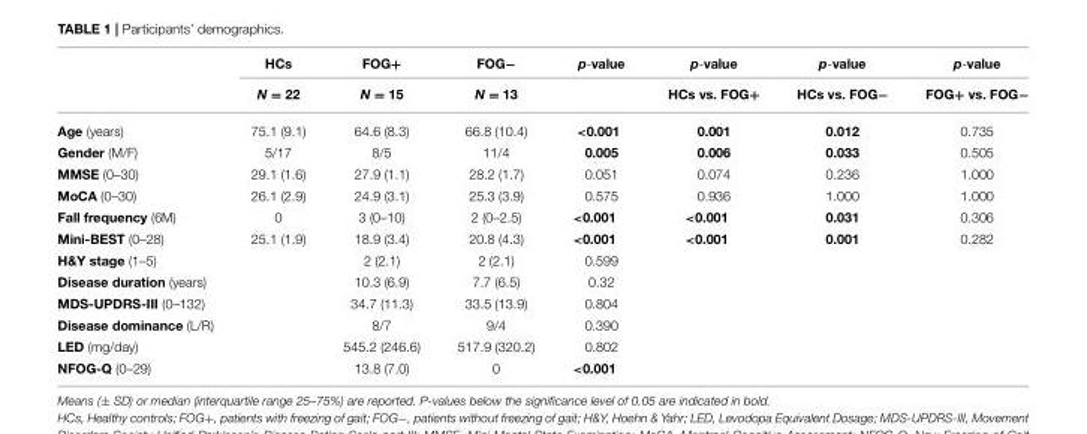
<table><thead><tr><td rowspan="2"></td><td rowspan="2">HCs N = 22</td><td rowspan="2">FOG+ N = 15</td><td rowspan="2">FOG− N = 13</td><td rowspan="2">p-value</td><td rowspan="2">p-value HCs vs. FOG+</td><td rowspan="2">p-value HCs vs. FOG−</td><td rowspan="2">p-value FOG+ vs. FOG−</td></tr><tr></tr></thead><tbody><tr><td>Age (years)</td><td>75.1 (9.1)</td><td>64.6 (8.3)</td><td>66.8 (10.4)</td><td>&lt;0.001</td><td>0.001</td><td>0.012</td><td>0.735</td></tr><tr><td>Gender (M/F)</td><td>5/17</td><td>8/5</td><td>11/4</td><td>0.005</td><td>0.006</td><td>0.033</td><td>0.505</td></tr><tr><td>MMSE (0–30)</td><td>29.1 (1.6)</td><td>27.9 (1.1)</td><td>28.2 (1.7)</td><td>0.051</td><td>0.074</td><td>0.236</td><td>1.000</td></tr><tr><td>MoCA (0–30)</td><td>26.1 (2.9)</td><td>24.9 (3.1)</td><td>25.3 (3.9)</td><td>0.575</td><td>0.936</td><td>1.000</td><td>1.000</td></tr><tr><td>Fall frequency (6M)</td><td>0</td><td>3 (0–10)</td><td>2 (0–2.5)</td><td>&lt;0.001</td><td>&lt;0.001</td><td>0.031</td><td>0.306</td></tr><tr><td>Mini-BEST (0–28)</td><td>25.1 (1.9)</td><td>18.9 (3.4)</td><td>20.8 (4.3)</td><td>&lt;0.001</td><td>&lt;0.001</td><td>0.001</td><td>0.282</td></tr><tr><td>H&amp;Y stage (1–5)</td><td></td><td>2 (2.1)</td><td>2 (2.1)</td><td>0.599</td><td></td><td></td><td></td></tr><tr><td>Disease duration (years)</td><td></td><td>10.3 (6.9)</td><td>7.7 (6.5)</td><td>0.32</td><td></td><td></td><td></td></tr><tr><td>MDS-UPDRS-III (0–132)</td><td></td><td>34.7 (11.3)</td><td>33.5 (13.9)</td><td>0.804</td><td></td><td></td><td></td></tr><tr><td>Disease dominance (L/R)</td><td></td><td>8/7</td><td>9/4</td><td>0.390</td><td></td><td></td><td></td></tr><tr><td>LED (mg/day)</td><td></td><td>545.2 (246.6)</td><td>517.9 (320.2)</td><td>0.802</td><td></td><td></td><td></td></tr><tr><td>NFOG-Q (0–29)</td><td></td><td>13.8 (7.0)</td><td>0</td><td>&lt;0.001</td><td></td><td></td><td></td></tr></tbody></table>